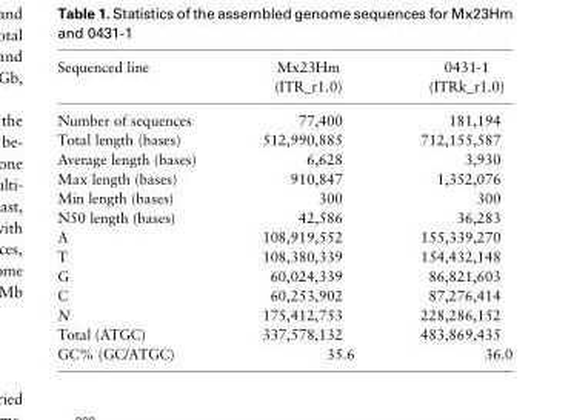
<table><thead><tr><td rowspan="2">Sequenced line</td><td rowspan="2">Mx23Hm (ITR_r1.0)</td><td rowspan="2">0431-1 (ITRk_r1.0)</td></tr><tr></tr></thead><tbody><tr><td>Number of sequences</td><td>77,400</td><td>181,194</td></tr><tr><td>Total length (bases)</td><td>512,990,885</td><td>712,155,587</td></tr><tr><td>Average length (bases)</td><td>6,628</td><td>3,930</td></tr><tr><td>Max length (bases)</td><td>910,847</td><td>1,352,076</td></tr><tr><td>Min length (bases)</td><td>300</td><td>300</td></tr><tr><td>N50 length (bases)</td><td>42,586</td><td>36,283</td></tr><tr><td>A</td><td>108,919,552</td><td>155,339,270</td></tr><tr><td>T</td><td>108,380,339</td><td>154,432,148</td></tr><tr><td>G</td><td>60,024,339</td><td>86,821,603</td></tr><tr><td>C</td><td>60,253,902</td><td>87,276,414</td></tr><tr><td>N</td><td>175,412,753</td><td>228,286,152</td></tr><tr><td>Total (ATGC)</td><td>337,578,132</td><td>483,869,435</td></tr><tr><td>GC% (GC/ATGC)</td><td>35.6</td><td>36.0</td></tr></tbody></table>